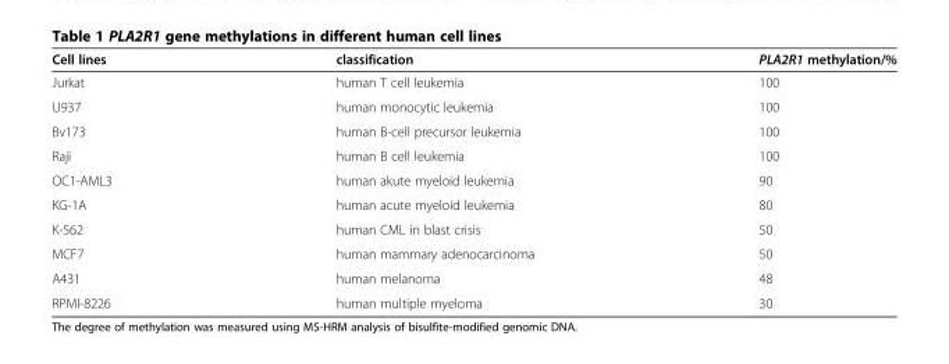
<table><thead><tr><td>Cell lines</td><td>classification</td><td>PLA2R1 methylation/%</td></tr></thead><tbody><tr><td>Jurkat</td><td>human T cell leukemia</td><td>100</td></tr><tr><td>U937</td><td>human monocytic leukemia</td><td>100</td></tr><tr><td>Bv173</td><td>human B-cell precursor leukemia</td><td>100</td></tr><tr><td>Raji</td><td>human B cell leukemia</td><td>100</td></tr><tr><td>OC1-AML3</td><td>human akute myeloid leukemia</td><td>90</td></tr><tr><td>KG-1A</td><td>human acute myeloid leukemia</td><td>80</td></tr><tr><td>K-562</td><td>human CML in blast crisis</td><td>50</td></tr><tr><td>MCF7</td><td>human mammary adenocarcinoma</td><td>50</td></tr><tr><td>A431</td><td>human melanoma</td><td>48</td></tr><tr><td>RPMI-8226</td><td>human multiple myeloma</td><td>30</td></tr></tbody></table>